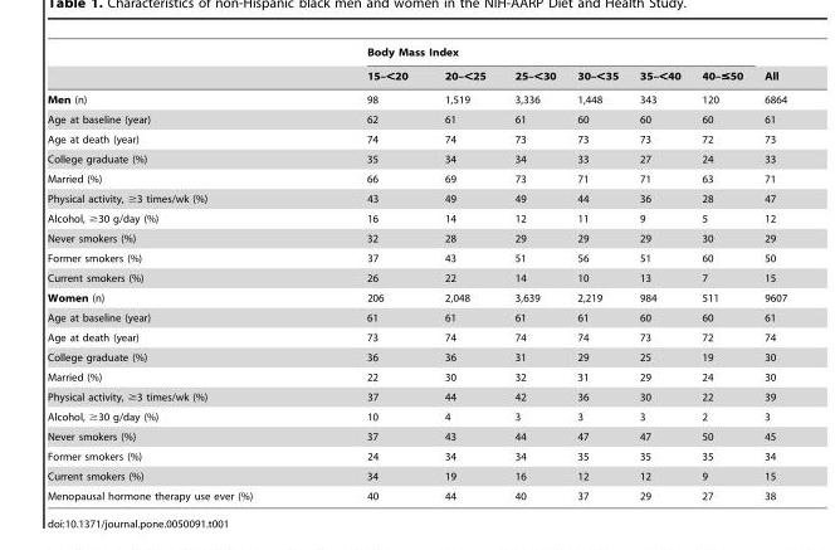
<table><thead><tr><td rowspan="2"></td><td colspan="6">Body Mass Index</td><td rowspan="2">All</td></tr><tr><td>15–&lt;20</td><td>20–&lt;25</td><td>25–&lt;30</td><td>30–&lt;35</td><td>35–&lt;40</td><td>40–≤50</td></tr></thead><tbody><tr><td>Men (n)</td><td>98</td><td>1,519</td><td>3,336</td><td>1,448</td><td>343</td><td>120</td><td>6864</td></tr><tr><td>Age at baseline (year)</td><td>62</td><td>61</td><td>61</td><td>60</td><td>60</td><td>60</td><td>61</td></tr><tr><td>Age at death (year)</td><td>74</td><td>74</td><td>73</td><td>73</td><td>73</td><td>72</td><td>73</td></tr><tr><td>College graduate (%)</td><td>35</td><td>34</td><td>34</td><td>33</td><td>27</td><td>24</td><td>33</td></tr><tr><td>Married (%)</td><td>66</td><td>69</td><td>73</td><td>71</td><td>71</td><td>63</td><td>71</td></tr><tr><td>Physical activity, ≥3 times/wk (%)</td><td>43</td><td>49</td><td>49</td><td>44</td><td>36</td><td>28</td><td>47</td></tr><tr><td>Alcohol, ≥30 g/day (%)</td><td>16</td><td>14</td><td>12</td><td>11</td><td>9</td><td>5</td><td>12</td></tr><tr><td>Never smokers (%)</td><td>32</td><td>28</td><td>29</td><td>29</td><td>29</td><td>30</td><td>29</td></tr><tr><td>Former smokers (%)</td><td>37</td><td>43</td><td>51</td><td>56</td><td>51</td><td>60</td><td>50</td></tr><tr><td>Current smokers (%)</td><td>26</td><td>22</td><td>14</td><td>10</td><td>13</td><td>7</td><td>15</td></tr><tr><td>Women (n)</td><td>206</td><td>2,048</td><td>3,639</td><td>2,219</td><td>984</td><td>511</td><td>9607</td></tr><tr><td>Age at baseline (year)</td><td>61</td><td>61</td><td>61</td><td>61</td><td>60</td><td>60</td><td>61</td></tr><tr><td>Age at death (year)</td><td>73</td><td>74</td><td>74</td><td>74</td><td>73</td><td>72</td><td>74</td></tr><tr><td>College graduate (%)</td><td>36</td><td>36</td><td>31</td><td>29</td><td>25</td><td>19</td><td>30</td></tr><tr><td>Married (%)</td><td>22</td><td>30</td><td>32</td><td>31</td><td>29</td><td>24</td><td>30</td></tr><tr><td>Physical activity, ≥3 times/wk (%)</td><td>37</td><td>44</td><td>42</td><td>36</td><td>30</td><td>22</td><td>39</td></tr><tr><td>Alcohol, ≥30 g/day (%)</td><td>10</td><td>4</td><td>3</td><td>3</td><td>3</td><td>2</td><td>3</td></tr><tr><td>Never smokers (%)</td><td>37</td><td>43</td><td>44</td><td>47</td><td>47</td><td>50</td><td>45</td></tr><tr><td>Former smokers (%)</td><td>24</td><td>34</td><td>34</td><td>35</td><td>35</td><td>35</td><td>34</td></tr><tr><td>Current smokers (%)</td><td>34</td><td>19</td><td>16</td><td>12</td><td>12</td><td>9</td><td>15</td></tr><tr><td>Menopausal hormone therapy use ever (%)</td><td>40</td><td>44</td><td>40</td><td>37</td><td>29</td><td>27</td><td>38</td></tr></tbody></table>